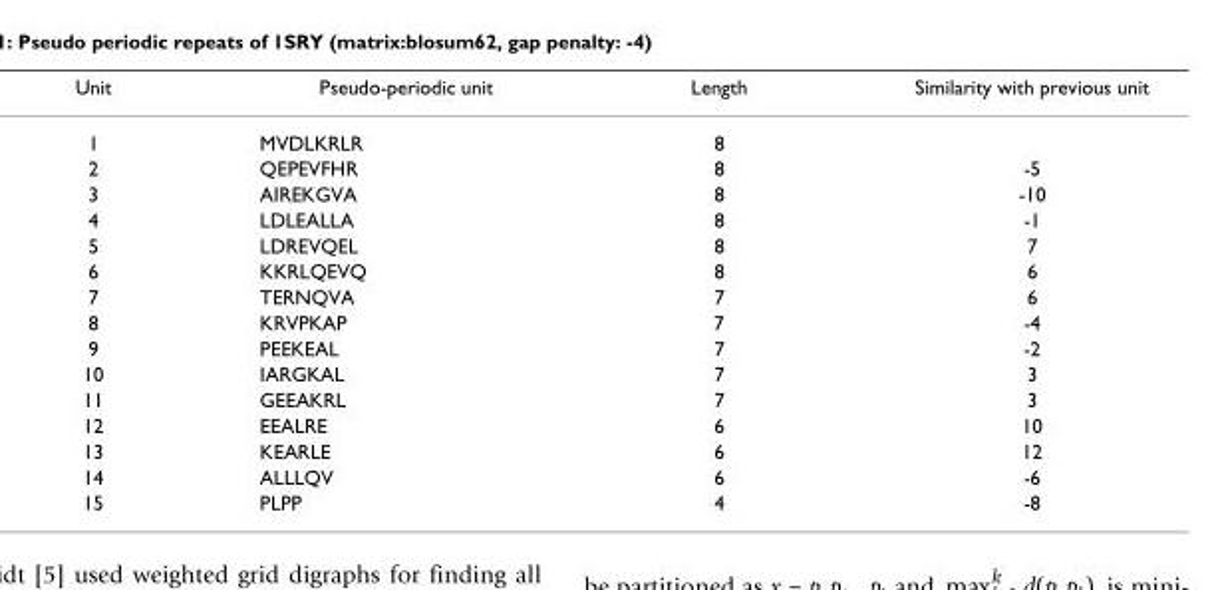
<table><thead><tr><td>Unit</td><td>Pseudo-periodic unit</td><td>Length</td><td>Similarity with previous unit</td></tr></thead><tbody><tr><td>1</td><td>MVDLKRLR</td><td>8</td><td></td></tr><tr><td>2</td><td>QEPEVFHR</td><td>8</td><td>-5</td></tr><tr><td>3</td><td>AIREKGVA</td><td>8</td><td>-10</td></tr><tr><td>4</td><td>LDLEALLA</td><td>8</td><td>-1</td></tr><tr><td>5</td><td>LDREVQEL</td><td>8</td><td>7</td></tr><tr><td>6</td><td>KKRLQEVQ</td><td>8</td><td>6</td></tr><tr><td>7</td><td>TERNQVA</td><td>7</td><td>6</td></tr><tr><td>8</td><td>KRVPKAP</td><td>7</td><td>-4</td></tr><tr><td>9</td><td>PEEKEAL</td><td>7</td><td>-2</td></tr><tr><td>10</td><td>IARGKAL</td><td>7</td><td>3</td></tr><tr><td>11</td><td>GEEAKRL</td><td>7</td><td>3</td></tr><tr><td>12</td><td>EEALRE</td><td>6</td><td>10</td></tr><tr><td>13</td><td>KEARLE</td><td>6</td><td>12</td></tr><tr><td>14</td><td>ALLLQV</td><td>6</td><td>-6</td></tr><tr><td>15</td><td>PLPP</td><td>4</td><td>-8</td></tr></tbody></table>